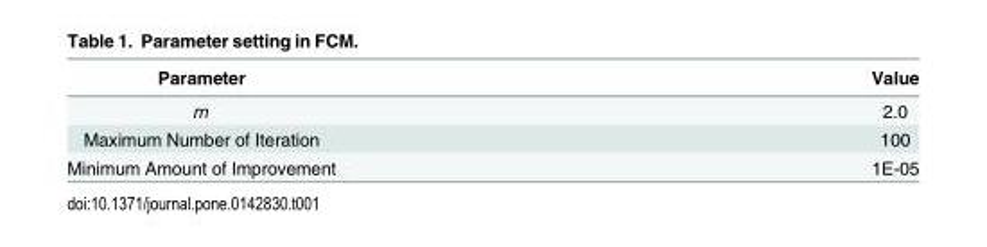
<table><thead><tr><td>Parameter</td><td>Value</td></tr></thead><tbody><tr><td>m</td><td>2.0</td></tr><tr><td>Maximum Number of Iteration</td><td>100</td></tr><tr><td>Minimum Amount of Improvement</td><td>1E-05</td></tr></tbody></table>